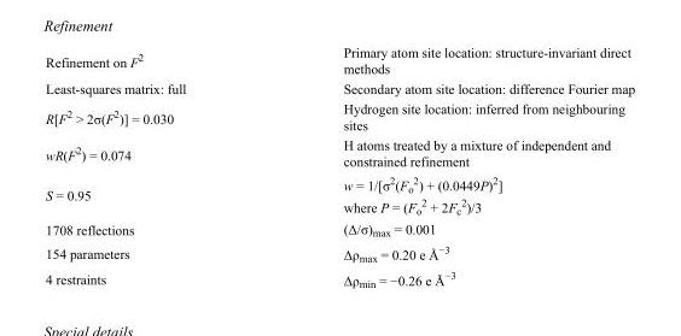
<table><tbody><tr><td>Refinement on F<sup>2</sup></td><td>Primary atom site location: structure-invariant direct methods</td></tr><tr><td>Least-squares matrix: full</td><td>Secondary atom site location: difference Fourier map</td></tr><tr><td>R[F<sup>2</sup> &gt; 2σ(F<sup>2</sup>)] = 0.030</td><td>Hydrogen site location: inferred from neighbouring sites</td></tr><tr><td>wR(F<sup>2</sup>) = 0.074</td><td>H atoms treated by a mixture of independent and constrained refinement</td></tr><tr><td>S = 0.95</td><td>w = 1/[σ<sup>2</sup>(F<sub>o</sub> <sup>2</sup>) + (0.0449P)<sup>2</sup>] where P = (F<sub>o</sub> <sup>2</sup> + 2F<sub>c</sub> <sup>2</sup>)/3</td></tr><tr><td>1708 reflections</td><td>(Δ/σ)<sub>max</sub> = 0.001</td></tr><tr><td>154 parameters</td><td>Δρ<sub>max</sub> = 0.20 e Å<sup>−3</sup></td></tr><tr><td>4 restraints</td><td>Δρ<sub>min</sub> = −0.26 e Å<sup>−3</sup></td></tr></tbody></table>